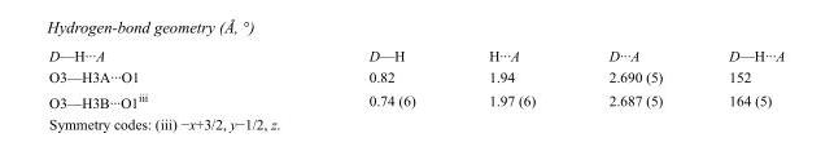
<table><tbody><tr><td>D—H···A</td><td>D—H</td><td>H···A</td><td>D···A</td><td>D—H···A</td></tr><tr><td>O3—H3A···O1</td><td>0.82</td><td>1.94</td><td>2.690 (5)</td><td>152</td></tr><tr><td>O3—H3B···O1<sup>iii</sup></td><td>0.74 (6)</td><td>1.97 (6)</td><td>2.687 (5)</td><td>164 (5)</td></tr></tbody></table>